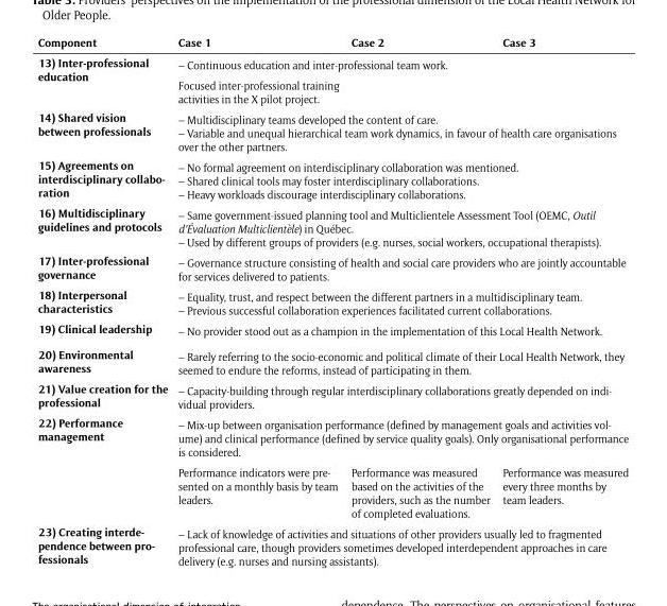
<table><thead><tr><td>Component</td><td>Case 1</td><td>Case 2</td><td>Case 3</td></tr></thead><tbody><tr><td rowspan="2">13) Inter-professional education</td><td colspan="3">– Continuous education and inter-professional team work.</td></tr><tr><td>Focused inter-professional training activities in the X pilot project.</td><td></td><td></td></tr><tr><td>14) Shared vision between professionals</td><td colspan="3">– Multidisciplinary teams developed the content of care. – Variable and unequal hierarchical team work dynamics, in favour of health care organisations over the other partners.</td></tr><tr><td>15) Agreements on interdisciplinary collabo- ration</td><td colspan="3">– No formal agreement on interdisciplinary collaboration was mentioned. – Shared clinical tools may foster interdisciplinary collaborations. – Heavy workloads discourage interdisciplinary collaborations.</td></tr><tr><td>16) Multidisciplinary guidelines and protocols</td><td colspan="3">– Same government-issued planning tool and Multiclientele Assessment Tool (OEMC, Outil d’Évaluation Multiclientèle) in Québec. – Used by different groups of providers (e.g. nurses, social workers, occupational therapists).</td></tr><tr><td>17) Inter-professional governance</td><td colspan="3">– Governance structure consisting of health and social care providers who are jointly accountable for services delivered to patients.</td></tr><tr><td>18) Interpersonal characteristics</td><td colspan="3">– Equality, trust, and respect between the different partners in a multidisciplinary team. – Previous successful collaboration experiences facilitated current collaborations.</td></tr><tr><td>19) Clinical leadership</td><td colspan="3">– No provider stood out as a champion in the implementation of this Local Health Network.</td></tr><tr><td>20) Environmental awareness</td><td colspan="3">– Rarely referring to the socio-economic and political climate of their Local Health Network, they seemed to endure the reforms, instead of participating in them.</td></tr><tr><td>21) Value creation for the professional</td><td colspan="3">– Capacity-building through regular interdisciplinary collaborations greatly depended on indi- vidual providers.</td></tr><tr><td rowspan="2">22) Performance management</td><td colspan="3">– Mix-up between organisation performance (defined by management goals and activities vol- ume) and clinical performance (defined by service quality goals). Only organisational performance is considered.</td></tr><tr><td>Performance indicators were pre- sented on a monthly basis by team leaders.</td><td>Performance was measured based on the activities of the providers, such as the number of completed evaluations.</td><td>Performance was measured every three months by team leaders.</td></tr><tr><td>23) Creating interde- pendence between pro- fessionals</td><td colspan="3">– Lack of knowledge of activities and situations of other providers usually led to fragmented professional care, though providers sometimes developed interdependent approaches in care delivery (e.g. nurses and nursing assistants).</td></tr></tbody></table>